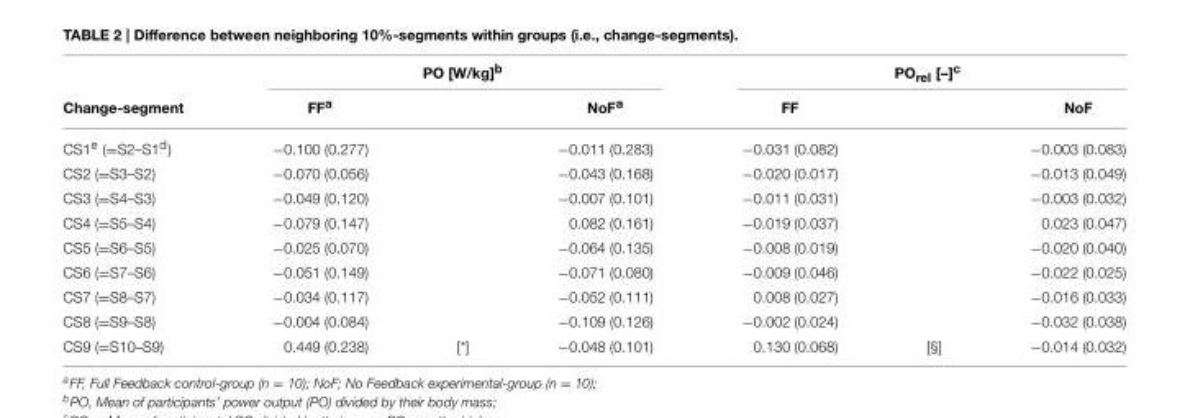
<table><thead><tr><td rowspan="2">Change-segment</td><td colspan="3">PO [W/kg]<sup>b</sup></td><td colspan="3">PO<sub>rel</sub> [–]<sup>c</sup></td></tr><tr><td>FF<sup>a</sup></td><td></td><td>NoF<sup>a</sup></td><td>FF</td><td></td><td>NoF</td></tr></thead><tbody><tr><td>CS1<sup>e</sup> (=S2–S1<sup>d</sup>)</td><td>−0.100 (0.277)</td><td></td><td>−0.011 (0.283)</td><td>−0.031 (0.082)</td><td></td><td>−0.003 (0.083)</td></tr><tr><td>CS2 (=S3–S2)</td><td>−0.070 (0.056)</td><td></td><td>−0.043 (0.168)</td><td>−0.020 (0.017)</td><td></td><td>−0.013 (0.049)</td></tr><tr><td>CS3 (=S4–S3)</td><td>−0.049 (0.120)</td><td></td><td>−0.007 (0.101)</td><td>−0.011 (0.031)</td><td></td><td>−0.003 (0.032)</td></tr><tr><td>CS4 (=S5–S4)</td><td>−0.079 (0.147)</td><td></td><td>0.082 (0.161)</td><td>−0.019 (0.037)</td><td></td><td>0.023 (0.047)</td></tr><tr><td>CS5 (=S6–S5)</td><td>−0.025 (0.070)</td><td></td><td>−0.064 (0.135)</td><td>−0.008 (0.019)</td><td></td><td>−0.020 (0.040)</td></tr><tr><td>CS6 (=S7–S6)</td><td>−0.051 (0.149)</td><td></td><td>−0.071 (0.080)</td><td>−0.009 (0.046)</td><td></td><td>−0.022 (0.025)</td></tr><tr><td>CS7 (=S8–S7)</td><td>−0.034 (0.117)</td><td></td><td>−0.052 (0.111)</td><td>0.008 (0.027)</td><td></td><td>−0.016 (0.033)</td></tr><tr><td>CS8 (=S9–S8)</td><td>−0.004 (0.084)</td><td></td><td>−0.109 (0.126)</td><td>−0.002 (0.024)</td><td></td><td>−0.032 (0.038)</td></tr><tr><td>CS9 (=S10–S9)</td><td>0.449 (0.238)</td><td>[*]</td><td>−0.048 (0.101)</td><td>0.130 (0.068)</td><td>[§]</td><td>−0.014 (0.032)</td></tr></tbody></table>